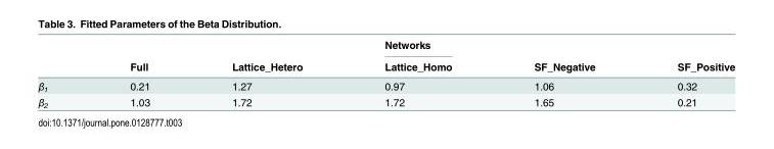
<table><thead><tr><td rowspan="2"></td><td rowspan="2">Full</td><td rowspan="2">Lattice_Hetero</td><td rowspan="2">Networks Lattice_Homo</td><td rowspan="2">SF_Negative</td><td rowspan="2">SF_Positive</td></tr><tr></tr></thead><tbody><tr><td>β<sub>1</sub></td><td>0.21</td><td>1.27</td><td>0.97</td><td>1.06</td><td>0.32</td></tr><tr><td>β<sub>2</sub></td><td>1.03</td><td>1.72</td><td>1.72</td><td>1.65</td><td>0.21</td></tr></tbody></table>